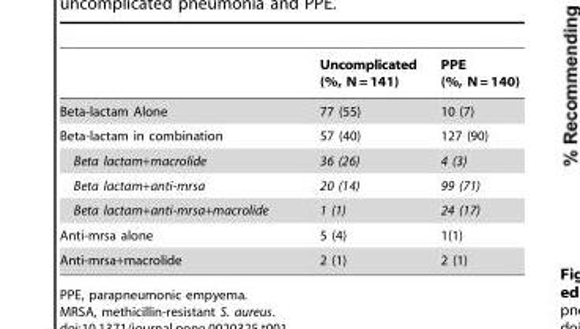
<table><thead><tr><td></td><td>Uncomplicated (%, N = 141)</td><td>PPE (%, N = 140)</td></tr></thead><tbody><tr><td>Beta-lactam Alone</td><td>77 (55)</td><td>10 (7)</td></tr><tr><td>Beta-lactam in combination</td><td>57 (40)</td><td>127 (90)</td></tr><tr><td>Beta lactam+macrolide</td><td>36 (26)</td><td>4 (3)</td></tr><tr><td>Beta lactam+anti-mrsa</td><td>20 (14)</td><td>99 (71)</td></tr><tr><td>Beta lactam+anti-mrsa+macrolide</td><td>1 (1)</td><td>24 (17)</td></tr><tr><td>Anti-mrsa alone</td><td>5 (4)</td><td>1(1)</td></tr><tr><td>Anti-mrsa+macrolide</td><td>2 (1)</td><td>2 (1)</td></tr></tbody></table>